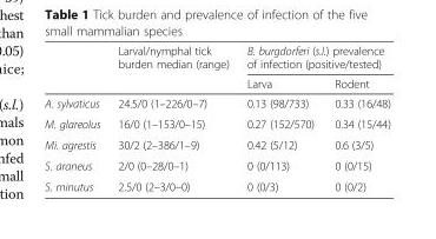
<table><thead><tr><td rowspan="2"></td><td rowspan="2">Larval/nymphal tick burden median (range)</td><td colspan="2">B. burgdorferi (s.l.) prevalence of infection (positive/tested)</td></tr><tr><td>Larva</td><td>Rodent</td></tr></thead><tbody><tr><td>A. sylvaticus</td><td>24.5/0 (1–226/0–7)</td><td>0.13 (98/733)</td><td>0.33 (16/48)</td></tr><tr><td>M. glareolus</td><td>16/0 (1–153/0–15)</td><td>0.27 (152/570)</td><td>0.34 (15/44)</td></tr><tr><td>Mi. agrestis</td><td>30/2 (2–386/1–9)</td><td>0.42 (5/12)</td><td>0.6 (3/5)</td></tr><tr><td>S. araneus</td><td>2/0 (0–28/0–1)</td><td>0 (0/113)</td><td>0 (0/15)</td></tr><tr><td>S. minutus</td><td>2.5/0 (2–3/0–0)</td><td>0 (0/3)</td><td>0 (0/2)</td></tr></tbody></table>